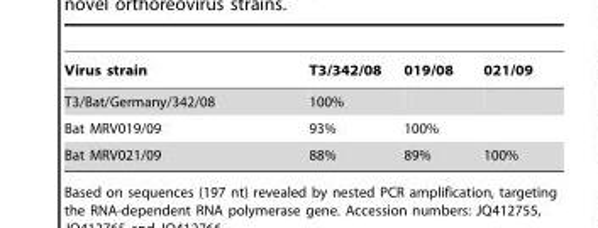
<table><thead><tr><td>Virus strain</td><td>T3/342/08</td><td>019/08</td><td>021/09</td></tr></thead><tbody><tr><td>T3/Bat/Germany/342/08</td><td>100%</td><td></td><td></td></tr><tr><td>Bat MRV019/09</td><td>93%</td><td>100%</td><td></td></tr><tr><td>Bat MRV021/09</td><td>88%</td><td>89%</td><td>100%</td></tr></tbody></table>